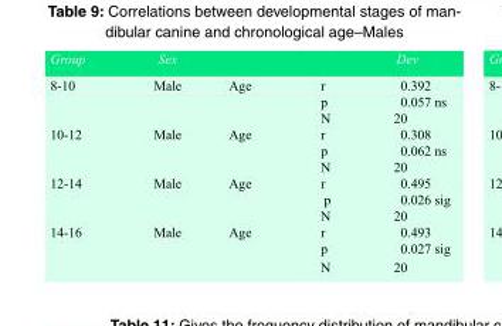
<table><tbody><tr><td>Group</td><td>Sex</td><td></td><td></td><td>Dev</td></tr><tr><td rowspan="3">8-10</td><td>Male</td><td>Age</td><td>r</td><td>0.392</td></tr><tr><td></td><td></td><td>p</td><td>0.057 ns</td></tr><tr><td></td><td></td><td>N</td><td>20</td></tr><tr><td rowspan="3">10-12</td><td>Male</td><td>Age</td><td>r</td><td>0.308</td></tr><tr><td></td><td></td><td>p</td><td>0.062 ns</td></tr><tr><td></td><td></td><td>N</td><td>20</td></tr><tr><td rowspan="3">12-14</td><td>Male</td><td>Age</td><td>r</td><td>0.495</td></tr><tr><td></td><td></td><td>p</td><td>0.026 sig</td></tr><tr><td></td><td></td><td>N</td><td>20</td></tr><tr><td rowspan="3">14-16</td><td>Male</td><td>Age</td><td>r</td><td>0.493</td></tr><tr><td></td><td></td><td>p</td><td>0.027 sig</td></tr><tr><td></td><td></td><td>N</td><td>20</td></tr></tbody></table>